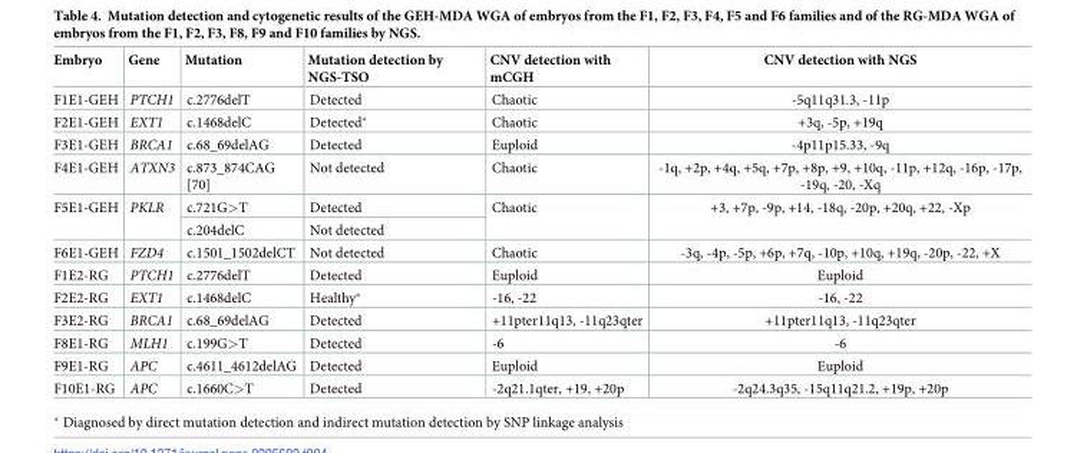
<table><thead><tr><td>Embryo</td><td>Gene</td><td>Mutation</td><td>Mutation detection by NGS-TSO</td><td>CNV detection with mCGH</td><td>CNV detection with NGS</td></tr></thead><tbody><tr><td>F1E1-GEH</td><td>PTCH1</td><td>c.2776delT</td><td>Detected</td><td>Chaotic</td><td>-5q11q31.3, -11p</td></tr><tr><td>F2E1-GEH</td><td>EXT1</td><td>c.1468delC</td><td>Detected*</td><td>Chaotic</td><td>+3q, -5p, +19q</td></tr><tr><td>F3E1-GEH</td><td>BRCA1</td><td>c.68_69delAG</td><td>Detected</td><td>Euploid</td><td>-4p11p15.33, -9q</td></tr><tr><td>F4E1-GEH</td><td>ATXN3</td><td>c.873_874CAG [70]</td><td>Not detected</td><td>Chaotic</td><td>-1q, +2p, +4q, +5q, +7p, +8p, +9, +10q, -11p, +12q, -16p, -17p, -19q, -20, -Xq</td></tr><tr><td rowspan="2">F5E1-GEH</td><td rowspan="2">PKLR</td><td>c.721G&gt;T</td><td>Detected</td><td rowspan="2">Chaotic</td><td rowspan="2">+3, +7p, -9p, +14, -18q, -20p, +20q, +22, -Xp</td></tr><tr><td>c.204delC</td><td>Not detected</td></tr><tr><td>F6E1-GEH</td><td>FZD4</td><td>c.1501_1502delCT</td><td>Not detected</td><td>Chaotic</td><td>-3q, -4p, -5p, +6p, +7q, -10p, +10q, +19q, -20p, -22, +X</td></tr><tr><td>F1E2-RG</td><td>PTCH1</td><td>c.2776delT</td><td>Detected</td><td>Euploid</td><td>Euploid</td></tr><tr><td>F2E2-RG</td><td>EXT1</td><td>c.1468delC</td><td>Healthy*</td><td>-16, -22</td><td>-16, -22</td></tr><tr><td>F3E2-RG</td><td>BRCA1</td><td>c.68_69delAG</td><td>Detected</td><td>+11pter11q13, -11q23qter</td><td>+11pter11q13, -11q23qter</td></tr><tr><td>F8E1-RG</td><td>MLH1</td><td>c.199G&gt;T</td><td>Detected</td><td>-6</td><td>-6</td></tr><tr><td>F9E1-RG</td><td>APC</td><td>c.4611_4612delAG</td><td>Detected</td><td>Euploid</td><td>Euploid</td></tr><tr><td>F10E1-RG</td><td>APC</td><td>c.1660C&gt;T</td><td>Detected</td><td>-2q21.1qter, +19, +20p</td><td>-2q24.3q35, -15q11q21.2, +19p, +20p</td></tr></tbody></table>